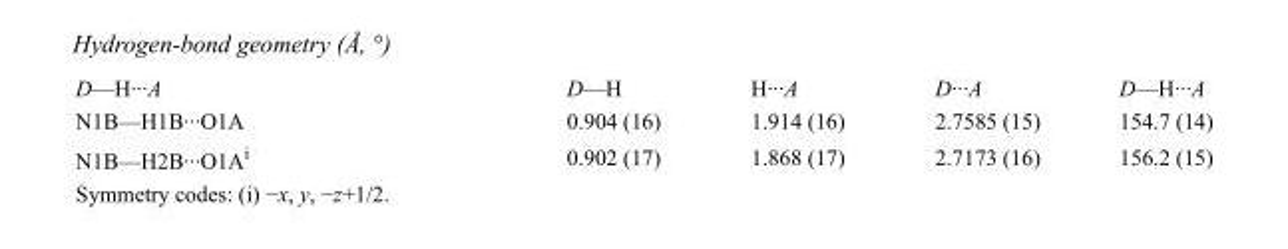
<table><tbody><tr><td>D—H···A</td><td>D—H</td><td>H···A</td><td>D···A</td><td>D—H···A</td></tr><tr><td>N1B—H1B···O1A</td><td>0.904 (16)</td><td>1.914 (16)</td><td>2.7585 (15)</td><td>154.7 (14)</td></tr><tr><td>N1B—H2B···O1A<sup>i</sup></td><td>0.902 (17)</td><td>1.868 (17)</td><td>2.7173 (16)</td><td>156.2 (15)</td></tr></tbody></table>